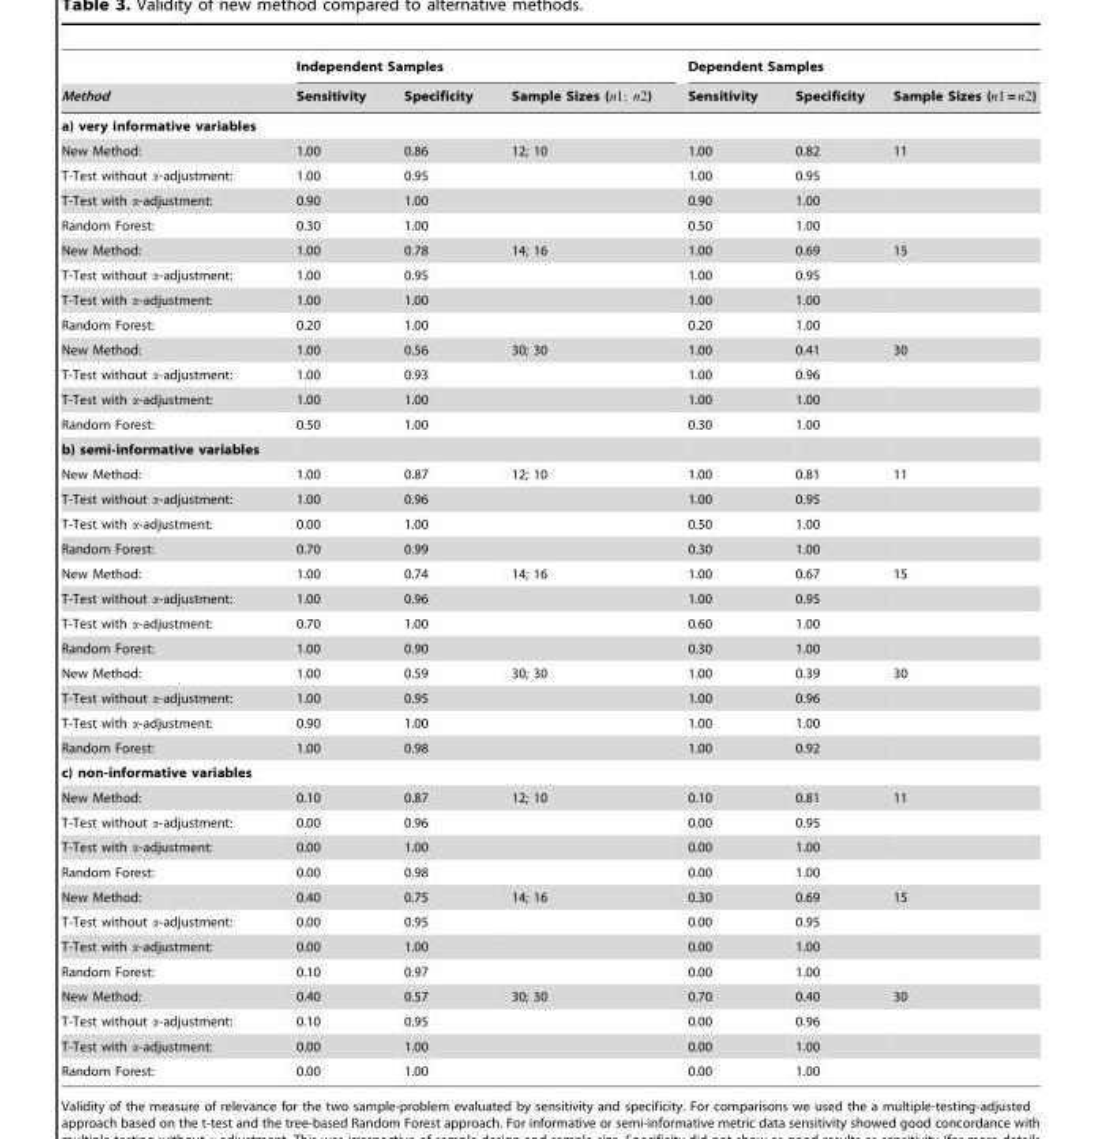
<table><thead><tr><td rowspan="2">Method</td><td colspan="3">Independent Samples</td><td colspan="3">Dependent Samples</td></tr><tr><td>Sensitivity</td><td>Specificity</td><td>Sample Sizes (n1; n2)</td><td>Sensitivity</td><td>Specificity</td><td>Sample Sizes (n1 = n2)</td></tr></thead><tbody><tr><td colspan="7">a) very informative variables</td></tr><tr><td>New Method:</td><td>1.00</td><td>0.86</td><td>12; 10</td><td>1.00</td><td>0.82</td><td>11</td></tr><tr><td>T-Test without a-adjustment:</td><td>1.00</td><td>0.95</td><td></td><td>1.00</td><td>0.95</td><td></td></tr><tr><td>T-Test with a-adjustment:</td><td>0.90</td><td>1.00</td><td></td><td>0.90</td><td>1.00</td><td></td></tr><tr><td>Random Forest:</td><td>0.30</td><td>1.00</td><td></td><td>0.50</td><td>1.00</td><td></td></tr><tr><td>New Method:</td><td>1.00</td><td>0.78</td><td>14; 16</td><td>1.00</td><td>0.69</td><td>15</td></tr><tr><td>T-Test without a-adjustment:</td><td>1.00</td><td>0.95</td><td></td><td>1.00</td><td>0.95</td><td></td></tr><tr><td>T-Test with a-adjustment:</td><td>1.00</td><td>1.00</td><td></td><td>1.00</td><td>1.00</td><td></td></tr><tr><td>Random Forest:</td><td>0.20</td><td>1.00</td><td></td><td>0.20</td><td>1.00</td><td></td></tr><tr><td>New Method:</td><td>1.00</td><td>0.56</td><td>30; 30</td><td>1.00</td><td>0.41</td><td>30</td></tr><tr><td>T-Test without a-adjustment:</td><td>1.00</td><td>0.93</td><td></td><td>1.00</td><td>0.96</td><td></td></tr><tr><td>T-Test with a-adjustment:</td><td>1.00</td><td>1.00</td><td></td><td>1.00</td><td>1.00</td><td></td></tr><tr><td>Random Forest:</td><td>0.50</td><td>1.00</td><td></td><td>0.30</td><td>1.00</td><td></td></tr><tr><td colspan="7">b) semi-informative variables</td></tr><tr><td>New Method:</td><td>1.00</td><td>0.87</td><td>12; 10</td><td>1.00</td><td>0.81</td><td>11</td></tr><tr><td>T-Test without a-adjustment:</td><td>1.00</td><td>0.96</td><td></td><td>1.00</td><td>0.95</td><td></td></tr><tr><td>T-Test with a-adjustment:</td><td>0.00</td><td>1.00</td><td></td><td>0.50</td><td>1.00</td><td></td></tr><tr><td>Random Forest:</td><td>0.70</td><td>0.99</td><td></td><td>0.30</td><td>1.00</td><td></td></tr><tr><td>New Method:</td><td>1.00</td><td>0.74</td><td>14; 16</td><td>1.00</td><td>0.67</td><td>15</td></tr><tr><td>T-Test without a-adjustment:</td><td>1.00</td><td>0.96</td><td></td><td>1.00</td><td>0.95</td><td></td></tr><tr><td>T-Test with a-adjustment:</td><td>0.70</td><td>1.00</td><td></td><td>0.60</td><td>1.00</td><td></td></tr><tr><td>Random Forest:</td><td>1.00</td><td>0.90</td><td></td><td>0.30</td><td>1.00</td><td></td></tr><tr><td>New Method:</td><td>1.00</td><td>0.59</td><td>30; 30</td><td>1.00</td><td>0.39</td><td>30</td></tr><tr><td>T-Test without a-adjustment:</td><td>1.00</td><td>0.95</td><td></td><td>1.00</td><td>0.96</td><td></td></tr><tr><td>T-Test with a-adjustment:</td><td>0.90</td><td>1.00</td><td></td><td>1.00</td><td>1.00</td><td></td></tr><tr><td>Random Forest:</td><td>1.00</td><td>0.98</td><td></td><td>1.00</td><td>0.92</td><td></td></tr><tr><td colspan="7">c) non-informative variables</td></tr><tr><td>New Method:</td><td>0.10</td><td>0.87</td><td>12; 10</td><td>0.10</td><td>0.81</td><td>11</td></tr><tr><td>T-Test without a-adjustment:</td><td>0.00</td><td>0.96</td><td></td><td>0.00</td><td>0.95</td><td></td></tr><tr><td>T-Test with a-adjustment:</td><td>0.00</td><td>1.00</td><td></td><td>0.00</td><td>1.00</td><td></td></tr><tr><td>Random Forest:</td><td>0.00</td><td>0.98</td><td></td><td>0.00</td><td>1.00</td><td></td></tr><tr><td>New Method:</td><td>0.40</td><td>0.75</td><td>14; 16</td><td>0.30</td><td>0.69</td><td>15</td></tr><tr><td>T-Test without a-adjustment:</td><td>0.00</td><td>0.95</td><td></td><td>0.00</td><td>0.95</td><td></td></tr><tr><td>T-Test with a-adjustment:</td><td>0.00</td><td>1.00</td><td></td><td>0.00</td><td>1.00</td><td></td></tr><tr><td>Random Forest:</td><td>0.10</td><td>0.97</td><td></td><td>0.00</td><td>1.00</td><td></td></tr><tr><td>New Method:</td><td>0.40</td><td>0.57</td><td>30; 30</td><td>0.70</td><td>0.40</td><td>30</td></tr><tr><td>T-Test without a-adjustment:</td><td>0.10</td><td>0.95</td><td></td><td>0.00</td><td>0.96</td><td></td></tr><tr><td>T-Test with a-adjustment:</td><td>0.00</td><td>1.00</td><td></td><td>0.00</td><td>1.00</td><td></td></tr><tr><td>Random Forest:</td><td>0.00</td><td>1.00</td><td></td><td>0.00</td><td>1.00</td><td></td></tr></tbody></table>